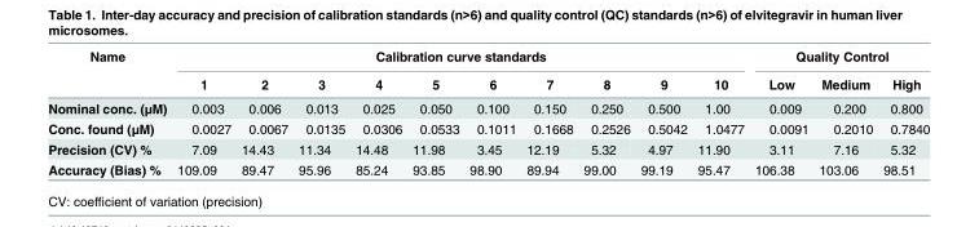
<table><thead><tr><td rowspan="2">Name</td><td colspan="10">Calibration curve standards</td><td colspan="3">Quality Control</td></tr><tr><td>1</td><td>2</td><td>3</td><td>4</td><td>5</td><td>6</td><td>7</td><td>8</td><td>9</td><td>10</td><td>Low</td><td>Medium</td><td>High</td></tr></thead><tbody><tr><td>Nominal conc. (μM)</td><td>0.003</td><td>0.006</td><td>0.013</td><td>0.025</td><td>0.050</td><td>0.100</td><td>0.150</td><td>0.250</td><td>0.500</td><td>1.00</td><td>0.009</td><td>0.200</td><td>0.800</td></tr><tr><td>Conc. found (μM)</td><td>0.0027</td><td>0.0067</td><td>0.0135</td><td>0.0306</td><td>0.0533</td><td>0.1011</td><td>0.1668</td><td>0.2526</td><td>0.5042</td><td>1.0477</td><td>0.0091</td><td>0.2010</td><td>0.7840</td></tr><tr><td>Precision (CV) %</td><td>7.09</td><td>14.43</td><td>11.34</td><td>14.48</td><td>11.98</td><td>3.45</td><td>12.19</td><td>5.32</td><td>4.97</td><td>11.90</td><td>3.11</td><td>7.16</td><td>5.32</td></tr><tr><td>Accuracy (Bias) %</td><td>109.09</td><td>89.47</td><td>95.96</td><td>85.24</td><td>93.85</td><td>98.90</td><td>89.94</td><td>99.00</td><td>99.19</td><td>95.47</td><td>106.38</td><td>103.06</td><td>98.51</td></tr></tbody></table>